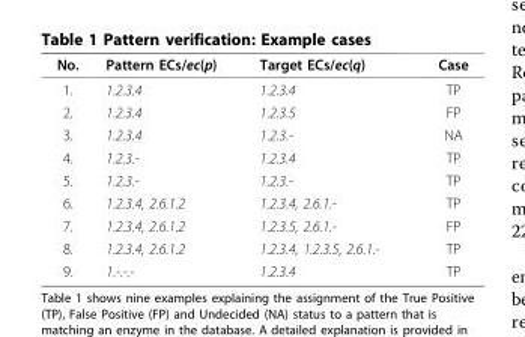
<table><thead><tr><td>No.</td><td>Pattern ECs/ec(p)</td><td>Target ECs/ec(q)</td><td>Case</td></tr></thead><tbody><tr><td>1.</td><td>1.2.3.4</td><td>1.2.3.4</td><td>TP</td></tr><tr><td>2.</td><td>1.2.3.4</td><td>1.2.3.5</td><td>FP</td></tr><tr><td>3.</td><td>1.2.3.4</td><td>1.2.3.-</td><td>NA</td></tr><tr><td>4.</td><td>1.2.3.-</td><td>1.2.3.4</td><td>TP</td></tr><tr><td>5.</td><td>1.2.3.-</td><td>1.2.3.-</td><td>TP</td></tr><tr><td>6.</td><td>1.2.3.4, 2.6.1.2</td><td>1.2.3.4, 2.6.1.-</td><td>TP</td></tr><tr><td>7.</td><td>1.2.3.4, 2.6.1.2</td><td>1.2.3.5, 2.6.1.-</td><td>FP</td></tr><tr><td>8.</td><td>1.2.3.4, 2.6.1.2</td><td>1.2.3.4, 1.2.3.5, 2.6.1.-</td><td>TP</td></tr><tr><td>9.</td><td>1.-.-.-</td><td>1.2.3.4</td><td>TP</td></tr></tbody></table>